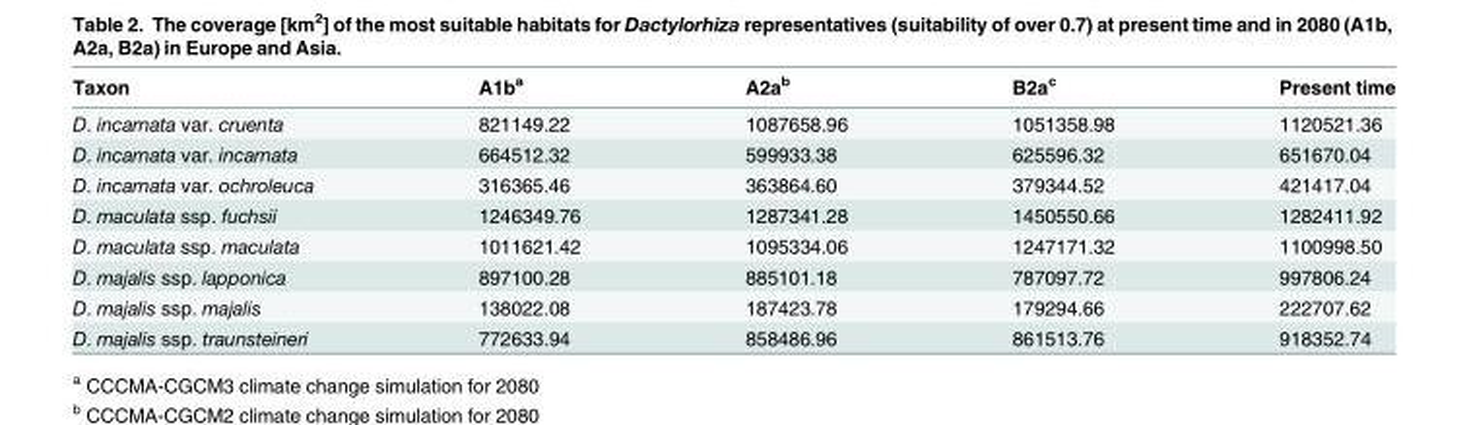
<table><thead><tr><td>Taxon</td><td>A1b<sup>a</sup></td><td>A2a<sup>b</sup></td><td>B2a<sup>c</sup></td><td>Present time</td></tr></thead><tbody><tr><td>D. incarnata var. cruenta</td><td>821149.22</td><td>1087658.96</td><td>1051358.98</td><td>1120521.36</td></tr><tr><td>D. incarnata var. incarnata</td><td>664512.32</td><td>599933.38</td><td>625596.32</td><td>651670.04</td></tr><tr><td>D. incarnata var. ochroleuca</td><td>316365.46</td><td>363864.60</td><td>379344.52</td><td>421417.04</td></tr><tr><td>D. maculata ssp. fuchsii</td><td>1246349.76</td><td>1287341.28</td><td>1450550.66</td><td>1282411.92</td></tr><tr><td>D. maculata ssp. maculata</td><td>1011621.42</td><td>1095334.06</td><td>1247171.32</td><td>1100998.50</td></tr><tr><td>D. majalis ssp. lapponica</td><td>897100.28</td><td>885101.18</td><td>787097.72</td><td>997806.24</td></tr><tr><td>D. majalis ssp. majalis</td><td>138022.08</td><td>187423.78</td><td>179294.66</td><td>222707.62</td></tr><tr><td>D. majalis ssp. traunsteineri</td><td>772633.94</td><td>858486.96</td><td>861513.76</td><td>918352.74</td></tr></tbody></table>